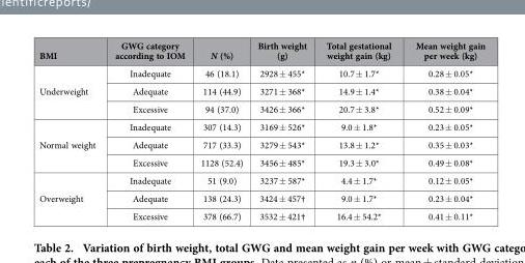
<table><thead><tr><td>BMI</td><td>GWG category according to IOM</td><td>N (%)</td><td>Birth weight (g)</td><td>Total gestational weight gain (kg)</td><td>Mean weight gain per week (kg)</td></tr></thead><tbody><tr><td rowspan="3">Underweight</td><td>Inadequate</td><td>46 (18.1)</td><td>2928 ± 455*</td><td>10.7 ± 1.7*</td><td>0.28 ± 0.05*</td></tr><tr><td>Adequate</td><td>114 (44.9)</td><td>3271 ± 368*</td><td>14.9 ± 1.4*</td><td>0.38 ± 0.04*</td></tr><tr><td>Excessive</td><td>94 (37.0)</td><td>3426 ± 366*</td><td>20.7 ± 3.8*</td><td>0.52 ± 0.09*</td></tr><tr><td rowspan="3">Normal weight</td><td>Inadequate</td><td>307 (14.3)</td><td>3169 ± 526*</td><td>9.0 ± 1.8*</td><td>0.23 ± 0.05*</td></tr><tr><td>Adequate</td><td>717 (33.3)</td><td>3279 ± 543*</td><td>13.8 ± 1.2*</td><td>0.35 ± 0.03*</td></tr><tr><td>Excessive</td><td>1128 (52.4)</td><td>3456 ± 485*</td><td>19.3 ± 3.0*</td><td>0.49 ± 0.08*</td></tr><tr><td rowspan="3">Overweight</td><td>Inadequate</td><td>51 (9.0)</td><td>3237 ± 587*</td><td>4.4 ± 1.7*</td><td>0.12 ± 0.05*</td></tr><tr><td>Adequate</td><td>138 (24.3)</td><td>3424 ± 457†</td><td>9.0 ± 1.7*</td><td>0.23 ± 0.04*</td></tr><tr><td>Excessive</td><td>378 (66.7)</td><td>3532 ± 421†</td><td>16.4 ± 54.2*</td><td>0.41 ± 0.11*</td></tr></tbody></table>